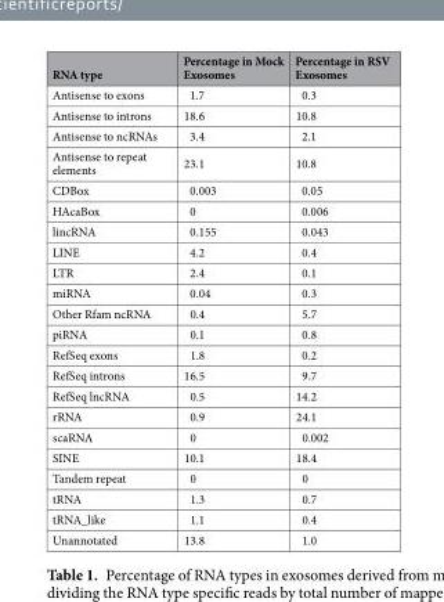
<table><thead><tr><td>RNA type</td><td>Percentage in Mock Exosomes</td><td>Percentage in RSV Exosomes</td></tr></thead><tbody><tr><td>Antisense to exons</td><td>1.7</td><td>0.3</td></tr><tr><td>Antisense to introns</td><td>18.6</td><td>10.8</td></tr><tr><td>Antisense to ncRNAs</td><td>3.4</td><td>2.1</td></tr><tr><td>Antisense to repeat elements</td><td>23.1</td><td>10.8</td></tr><tr><td>CDBox</td><td>0.003</td><td>0.05</td></tr><tr><td>HAcaBox</td><td>0</td><td>0.006</td></tr><tr><td>lincRNA</td><td>0.155</td><td>0.043</td></tr><tr><td>LINE</td><td>4.2</td><td>0.4</td></tr><tr><td>LTR</td><td>2.4</td><td>0.1</td></tr><tr><td>miRNA</td><td>0.04</td><td>0.3</td></tr><tr><td>Other Rfam ncRNA</td><td>0.4</td><td>5.7</td></tr><tr><td>piRNA</td><td>0.1</td><td>0.8</td></tr><tr><td>RefSeq exons</td><td>1.8</td><td>0.2</td></tr><tr><td>RefSeq introns</td><td>16.5</td><td>9.7</td></tr><tr><td>RefSeq lncRNA</td><td>0.5</td><td>14.2</td></tr><tr><td>rRNA</td><td>0.9</td><td>24.1</td></tr><tr><td>scaRNA</td><td>0</td><td>0.002</td></tr><tr><td>SINE</td><td>10.1</td><td>18.4</td></tr><tr><td>Tandem repeat</td><td>0</td><td>0</td></tr><tr><td>tRNA</td><td>1.3</td><td>0.7</td></tr><tr><td>tRNA_like</td><td>1.1</td><td>0.4</td></tr><tr><td>Unannotated</td><td>13.8</td><td>1.0</td></tr></tbody></table>